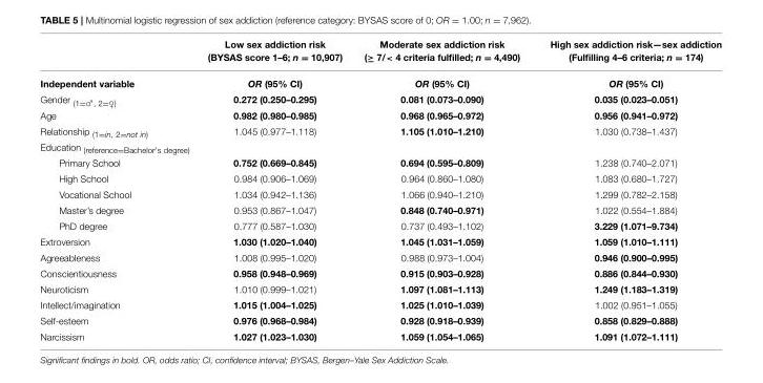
<table><thead><tr><td></td><td>Low sex addiction risk (BYSAS score 1–6; n = 10,907)</td><td>Moderate sex addiction risk (≥ 7/&lt; 4 criteria fulfilled; n = 4,490)</td><td>High sex addiction risk—sex addiction (Fulfilling 4–6 criteria; n = 174)</td></tr></thead><tbody><tr><td>Independent variable</td><td>OR (95% CI)</td><td>OR (95% CI)</td><td>OR (95% CI)</td></tr><tr><td>Gender <sub>(1=♂, 2=♀)</sub></td><td>0.272 (0.250–0.295)</td><td>0.081 (0.073–0.090)</td><td>0.035 (0.023–0.051)</td></tr><tr><td>Age</td><td>0.982 (0.980–0.985)</td><td>0.968 (0.965–0.972)</td><td>0.956 (0.941–0.972)</td></tr><tr><td>Relationship <sub>(1=in, 2=not in)</sub></td><td>1.045 (0.977–1.118)</td><td>1.105 (1.010–1.210)</td><td>1.030 (0.738–1.437)</td></tr><tr><td colspan="4">Education <sub>(reference=Bachelor′s degree)</sub></td></tr><tr><td>Primary School</td><td>0.752 (0.669–0.845)</td><td>0.694 (0.595–0.809)</td><td>1.238 (0.740–2.071)</td></tr><tr><td>High School</td><td>0.984 (0.906–1.069)</td><td>0.964 (0.860–1.080)</td><td>1.083 (0.680–1.727)</td></tr><tr><td>Vocational School</td><td>1.034 (0.942–1.136)</td><td>1.066 (0.940–1.210)</td><td>1.299 (0.782–2.158)</td></tr><tr><td>Master’s degree</td><td>0.953 (0.867–1.047)</td><td>0.848 (0.740–0.971)</td><td>1.022 (0.554–1.884)</td></tr><tr><td>PhD degree</td><td>0.777 (0.587–1.030)</td><td>0.737 (0.493–1.102)</td><td>3.229 (1.071–9.734)</td></tr><tr><td>Extroversion</td><td>1.030 (1.020–1.040)</td><td>1.045 (1.031–1.059)</td><td>1.059 (1.010–1.111)</td></tr><tr><td>Agreeableness</td><td>1.008 (0.995–1.020)</td><td>0.988 (0.973–1.004)</td><td>0.946 (0.900–0.995)</td></tr><tr><td>Conscientiousness</td><td>0.958 (0.948–0.969)</td><td>0.915 (0.903–0.928)</td><td>0.886 (0.844–0.930)</td></tr><tr><td>Neuroticism</td><td>1.010 (0.999–1.021)</td><td>1.097 (1.081–1.113)</td><td>1.249 (1.183–1.319)</td></tr><tr><td>Intellect/imagination</td><td>1.015 (1.004–1.025)</td><td>1.025 (1.010–1.039)</td><td>1.002 (0.951–1.055)</td></tr><tr><td>Self-esteem</td><td>0.976 (0.968–0.984)</td><td>0.928 (0.918–0.939)</td><td>0.858 (0.829–0.888)</td></tr><tr><td>Narcissism</td><td>1.027 (1.023–1.030)</td><td>1.059 (1.054–1.065)</td><td>1.091 (1.072–1.111)</td></tr></tbody></table>